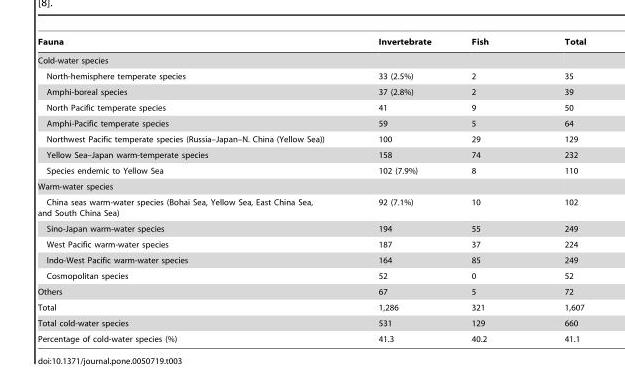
<table><thead><tr><td>Fauna</td><td>Invertebrate</td><td>Fish</td><td>Total</td></tr></thead><tbody><tr><td colspan="4">Cold-water species</td></tr><tr><td>North-hemisphere temperate species</td><td>33 (2.5%)</td><td>2</td><td>35</td></tr><tr><td>Amphi-boreal species</td><td>37 (2.8%)</td><td>2</td><td>39</td></tr><tr><td>North Pacific temperate species</td><td>41</td><td>9</td><td>50</td></tr><tr><td>Amphi-Pacific temperate species</td><td>59</td><td>5</td><td>64</td></tr><tr><td>Northwest Pacific temperate species (Russia–Japan–N. China (Yellow Sea))</td><td>100</td><td>29</td><td>129</td></tr><tr><td>Yellow Sea–Japan warm-temperate species</td><td>158</td><td>74</td><td>232</td></tr><tr><td>Species endemic to Yellow Sea</td><td>102 (7.9%)</td><td>8</td><td>110</td></tr><tr><td colspan="4">Warm-water species</td></tr><tr><td>China seas warm-water species (Bohai Sea, Yellow Sea, East China Sea, and South China Sea)</td><td>92 (7.1%)</td><td>10</td><td>102</td></tr><tr><td>Sino-Japan warm-water species</td><td>194</td><td>55</td><td>249</td></tr><tr><td>West Pacific warm-water species</td><td>187</td><td>37</td><td>224</td></tr><tr><td>Indo-West Pacific warm-water species</td><td>164</td><td>85</td><td>249</td></tr><tr><td>Cosmopolitan species</td><td>52</td><td>0</td><td>52</td></tr><tr><td>Others</td><td>67</td><td>5</td><td>72</td></tr><tr><td>Total</td><td>1,286</td><td>321</td><td>1,607</td></tr><tr><td>Total cold-water species</td><td>531</td><td>129</td><td>660</td></tr><tr><td>Percentage of cold-water species (%)</td><td>41.3</td><td>40.2</td><td>41.1</td></tr></tbody></table>